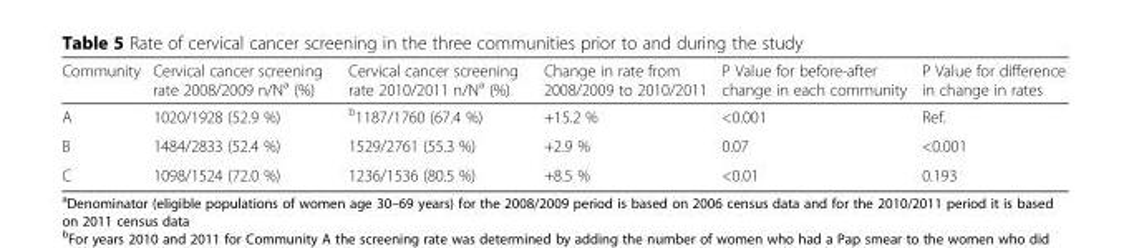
<table><thead><tr><td>Community</td><td>Cervical cancer screening rate 2008/2009 n/N<sup>a</sup> (%)</td><td>Cervical cancer screening rate 2010/2011 n/N<sup>a</sup> (%)</td><td>Change in rate from 2008/2009 to 2010/2011</td><td>P Value for before-after change in each community</td><td>P Value for difference in change in rates</td></tr></thead><tbody><tr><td>A</td><td>1020/1928 (52.9 %)</td><td><sup>b</sup>1187/1760 (67.4 %)</td><td>+15.2 %</td><td>&lt;0.001</td><td>Ref.</td></tr><tr><td>B</td><td>1484/2833 (52.4 %)</td><td>1529/2761 (55.3 %)</td><td>+2.9 %</td><td>0.07</td><td>&lt;0.001</td></tr><tr><td>C</td><td>1098/1524 (72.0 %)</td><td>1236/1536 (80.5 %)</td><td>+8.5 %</td><td>&lt;0.01</td><td>0.193</td></tr></tbody></table>